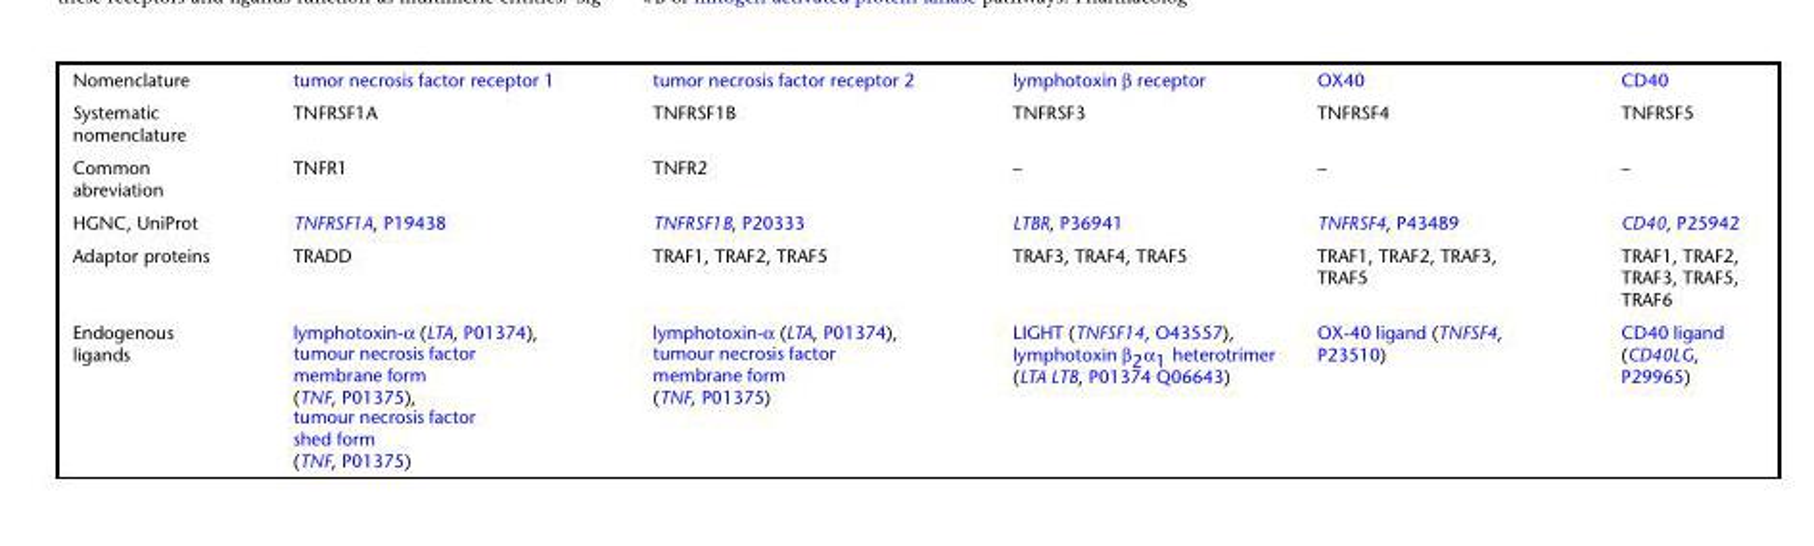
<table><tbody><tr><td>Nomenclature</td><td>tumor necrosis factor receptor 1</td><td>tumor necrosis factor receptor 2</td><td>lymphotoxin β receptor</td><td>OX40</td><td>CD40</td></tr><tr><td>Systematic nomenclature</td><td>TNFRSF1A</td><td>TNFRSF1B</td><td>TNFRSF3</td><td>TNFRSF4</td><td>TNFRSF5</td></tr><tr><td>Common abreviation</td><td>TNFR1</td><td>TNFR2</td><td>–</td><td>–</td><td>–</td></tr><tr><td>HGNC, UniProt</td><td>TNFRSF1A, P19438</td><td>TNFRSF1B, P20333</td><td>LTBR, P36941</td><td>TNFRSF4, P43489</td><td>CD40, P25942</td></tr><tr><td>Adaptor proteins</td><td>TRADD</td><td>TRAF1, TRAF2, TRAF5</td><td>TRAF3, TRAF4, TRAF5</td><td>TRAF1, TRAF2, TRAF3, TRAF5</td><td>TRAF1, TRAF2, TRAF3, TRAF5, TRAF6</td></tr><tr><td>Endogenous ligands</td><td>lymphotoxin-α (LTA, P01374), tumour necrosis factor membrane form (TNF, P01375), tumour necrosis factor shed form (TNF, P01375)</td><td>lymphotoxin-α (LTA, P01374), tumour necrosis factor membrane form (TNF, P01375)</td><td>LIGHT (TNFSF14, O43557), lymphotoxin β<sub>2</sub>α<sub>1</sub> heterotrimer (LTA LTB, P01374 Q06643)</td><td>OX-40 ligand (TNFSF4, P23510)</td><td>CD40 ligand (CD40LG, P29965)</td></tr></tbody></table>